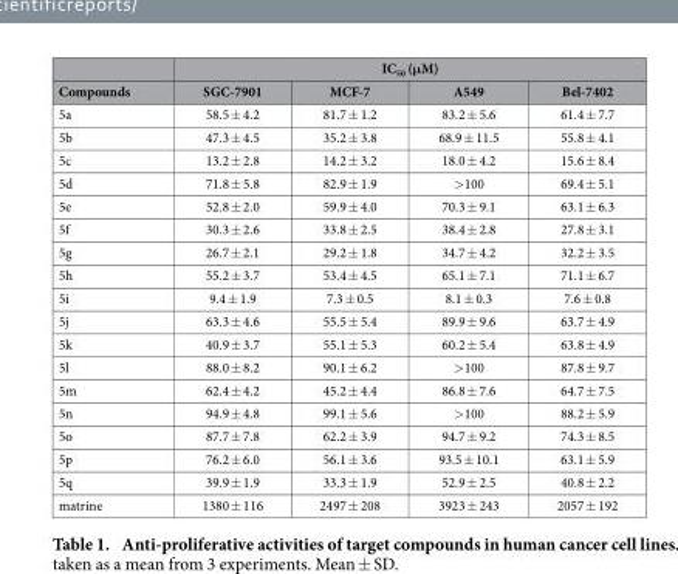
<table><thead><tr><td rowspan="2">Compounds</td><td colspan="4">IC<sub>50</sub> (μM)</td></tr><tr><td>SGC-7901</td><td>MCF-7</td><td>A549</td><td>Bel-7402</td></tr></thead><tbody><tr><td>5a</td><td>58.5 ± 4.2</td><td>81.7 ± 1.2</td><td>83.2 ± 5.6</td><td>61.4 ± 7.7</td></tr><tr><td>5b</td><td>47.3 ± 4.5</td><td>35.2 ± 3.8</td><td>68.9 ± 11.5</td><td>55.8 ± 4.1</td></tr><tr><td>5c</td><td>13.2 ± 2.8</td><td>14.2 ± 3.2</td><td>18.0 ± 4.2</td><td>15.6 ± 8.4</td></tr><tr><td>5d</td><td>71.8 ± 5.8</td><td>82.9 ± 1.9</td><td>&gt; 100</td><td>69.4 ± 5.1</td></tr><tr><td>5e</td><td>52.8 ± 2.0</td><td>59.9 ± 4.0</td><td>70.3 ± 9.1</td><td>63.1 ± 6.3</td></tr><tr><td>5f</td><td>30.3 ± 2.6</td><td>33.8 ± 2.5</td><td>38.4 ± 2.8</td><td>27.8 ± 3.1</td></tr><tr><td>5g</td><td>26.7 ± 2.1</td><td>29.2 ± 1.8</td><td>34.7 ± 4.2</td><td>32.2 ± 3.5</td></tr><tr><td>5h</td><td>55.2 ± 3.7</td><td>53.4 ± 4.5</td><td>65.1 ± 7.1</td><td>71.1 ± 6.7</td></tr><tr><td>5i</td><td>9.4 ± 1.9</td><td>7.3 ± 0.5</td><td>8.1 ± 0.3</td><td>7.6 ± 0.8</td></tr><tr><td>5j</td><td>63.3 ± 4.6</td><td>55.5 ± 5.4</td><td>89.9 ± 9.6</td><td>63.7 ± 4.9</td></tr><tr><td>5k</td><td>40.9 ± 3.7</td><td>55.1 ± 5.3</td><td>60.2 ± 5.4</td><td>63.8 ± 4.9</td></tr><tr><td>5l</td><td>88.0 ± 8.2</td><td>90.1 ± 6.2</td><td>&gt; 100</td><td>87.8 ± 9.7</td></tr><tr><td>5m</td><td>62.4 ± 4.2</td><td>45.2 ± 4.4</td><td>86.8 ± 7.6</td><td>64.7 ± 7.5</td></tr><tr><td>5n</td><td>94.9 ± 4.8</td><td>99.1 ± 5.6</td><td>&gt; 100</td><td>88.2 ± 5.9</td></tr><tr><td>5o</td><td>87.7 ± 7.8</td><td>62.2 ± 3.9</td><td>94.7 ± 9.2</td><td>74.3 ± 8.5</td></tr><tr><td>5p</td><td>76.2 ± 6.0</td><td>56.1 ± 3.6</td><td>93.5 ± 10.1</td><td>63.1 ± 5.9</td></tr><tr><td>5q</td><td>39.9 ± 1.9</td><td>33.3 ± 1.9</td><td>52.9 ± 2.5</td><td>40.8 ± 2.2</td></tr><tr><td>matrine</td><td>1380 ± 116</td><td>2497 ± 208</td><td>3923 ± 243</td><td>2057 ± 192</td></tr></tbody></table>